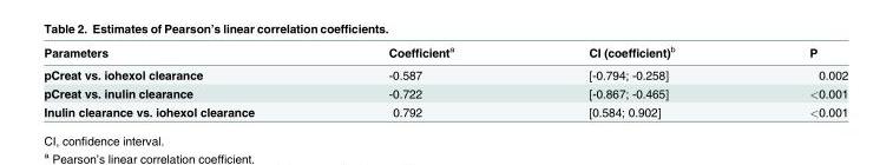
<table><thead><tr><td>Parameters</td><td>Coefficient<sup>a</sup></td><td>CI (coefficient)<sup>b</sup></td><td>P</td></tr></thead><tbody><tr><td>pCreat vs. iohexol clearance</td><td>-0.587</td><td>[-0.794; -0.258]</td><td>0.002</td></tr><tr><td>pCreat vs. inulin clearance</td><td>-0.722</td><td>[-0.867; -0.465]</td><td>&lt;0.001</td></tr><tr><td>Inulin clearance vs. iohexol clearance</td><td>0.792</td><td>[0.584; 0.902]</td><td>&lt;0.001</td></tr></tbody></table>